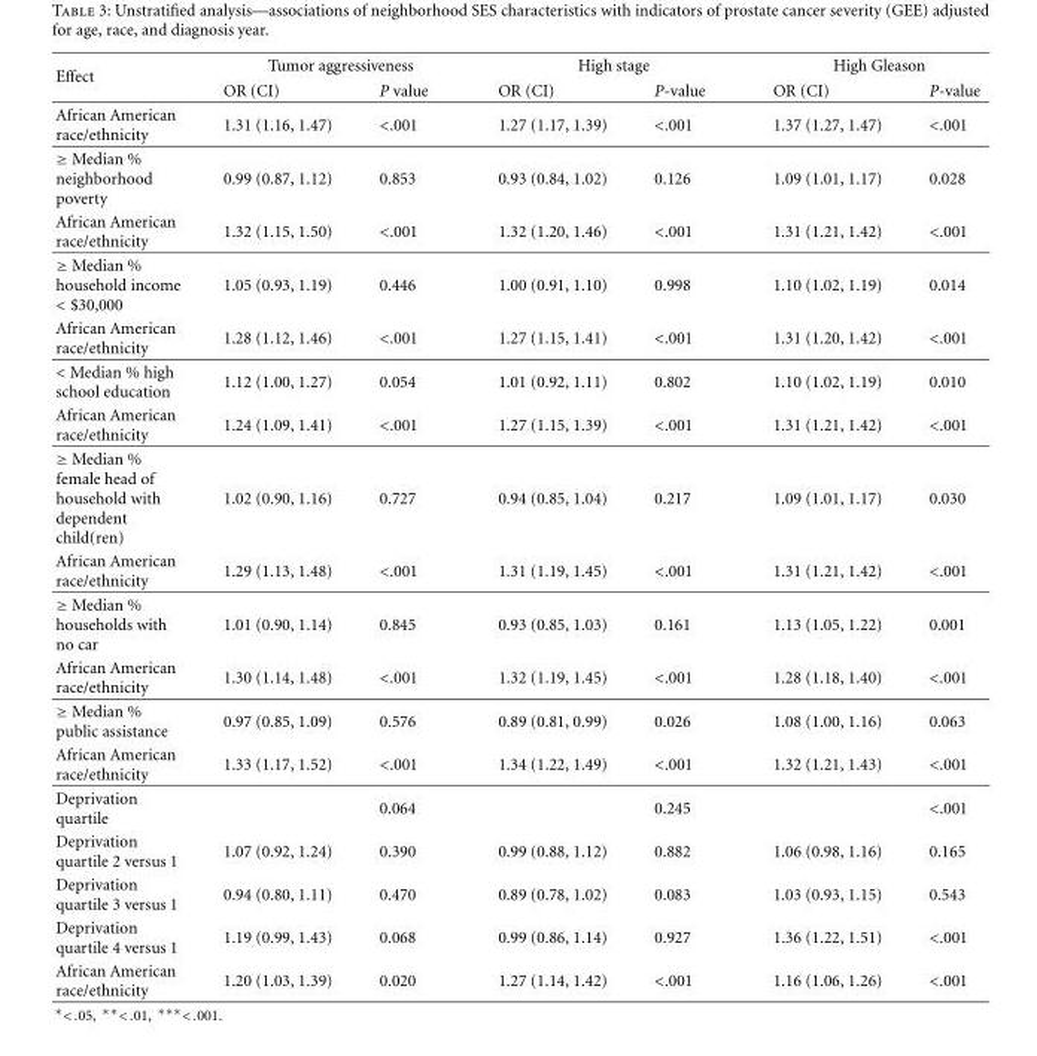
<table><thead><tr><td rowspan="2">Effect</td><td colspan="2">Tumor aggressiveness</td><td colspan="2">High stage</td><td colspan="2">High Gleason</td></tr><tr><td>OR (CI)</td><td>P value</td><td>OR (CI)</td><td>P-value</td><td>OR (CI)</td><td>P-value</td></tr></thead><tbody><tr><td>African American race/ethnicity</td><td>1.31 (1.16, 1.47)</td><td>&lt;.001</td><td>1.27 (1.17, 1.39)</td><td>&lt;.001</td><td>1.37 (1.27, 1.47)</td><td>&lt;.001</td></tr><tr><td>≥ Median % neighborhood poverty</td><td>0.99 (0.87, 1.12)</td><td>0.853</td><td>0.93 (0.84, 1.02)</td><td>0.126</td><td>1.09 (1.01, 1.17)</td><td>0.028</td></tr><tr><td>African American race/ethnicity</td><td>1.32 (1.15, 1.50)</td><td>&lt;.001</td><td>1.32 (1.20, 1.46)</td><td>&lt;.001</td><td>1.31 (1.21, 1.42)</td><td>&lt;.001</td></tr><tr><td>≥ Median % household income &lt; $30,000</td><td>1.05 (0.93, 1.19)</td><td>0.446</td><td>1.00 (0.91, 1.10)</td><td>0.998</td><td>1.10 (1.02, 1.19)</td><td>0.014</td></tr><tr><td>African American race/ethnicity</td><td>1.28 (1.12, 1.46)</td><td>&lt;.001</td><td>1.27 (1.15, 1.41)</td><td>&lt;.001</td><td>1.31 (1.20, 1.42)</td><td>&lt;.001</td></tr><tr><td>&lt; Median % high school education</td><td>1.12 (1.00, 1.27)</td><td>0.054</td><td>1.01 (0.92, 1.11)</td><td>0.802</td><td>1.10 (1.02, 1.19)</td><td>0.010</td></tr><tr><td>African American race/ethnicity</td><td>1.24 (1.09, 1.41)</td><td>&lt;.001</td><td>1.27 (1.15, 1.39)</td><td>&lt;.001</td><td>1.31 (1.21, 1.42)</td><td>&lt;.001</td></tr><tr><td>≥ Median % female head of household with dependent child(ren)</td><td>1.02 (0.90, 1.16)</td><td>0.727</td><td>0.94 (0.85, 1.04)</td><td>0.217</td><td>1.09 (1.01, 1.17)</td><td>0.030</td></tr><tr><td>African American race/ethnicity</td><td>1.29 (1.13, 1.48)</td><td>&lt;.001</td><td>1.31 (1.19, 1.45)</td><td>&lt;.001</td><td>1.31 (1.21, 1.42)</td><td>&lt;.001</td></tr><tr><td>≥ Median % households with no car</td><td>1.01 (0.90, 1.14)</td><td>0.845</td><td>0.93 (0.85, 1.03)</td><td>0.161</td><td>1.13 (1.05, 1.22)</td><td>0.001</td></tr><tr><td>African American race/ethnicity</td><td>1.30 (1.14, 1.48)</td><td>&lt;.001</td><td>1.32 (1.19, 1.45)</td><td>&lt;.001</td><td>1.28 (1.18, 1.40)</td><td>&lt;.001</td></tr><tr><td>≥ Median % public assistance</td><td>0.97 (0.85, 1.09)</td><td>0.576</td><td>0.89 (0.81, 0.99)</td><td>0.026</td><td>1.08 (1.00, 1.16)</td><td>0.063</td></tr><tr><td>African American race/ethnicity</td><td>1.33 (1.17, 1.52)</td><td>&lt;.001</td><td>1.34 (1.22, 1.49)</td><td>&lt;.001</td><td>1.32 (1.21, 1.43)</td><td>&lt;.001</td></tr><tr><td>Deprivation quartile</td><td></td><td>0.064</td><td></td><td>0.245</td><td></td><td>&lt;.001</td></tr><tr><td>Deprivation quartile 2 versus 1</td><td>1.07 (0.92, 1.24)</td><td>0.390</td><td>0.99 (0.88, 1.12)</td><td>0.882</td><td>1.06 (0.98, 1.16)</td><td>0.165</td></tr><tr><td>Deprivation quartile 3 versus 1</td><td>0.94 (0.80, 1.11)</td><td>0.470</td><td>0.89 (0.78, 1.02)</td><td>0.083</td><td>1.03 (0.93, 1.15)</td><td>0.543</td></tr><tr><td>Deprivation quartile 4 versus 1</td><td>1.19 (0.99, 1.43)</td><td>0.068</td><td>0.99 (0.86, 1.14)</td><td>0.927</td><td>1.36 (1.22, 1.51)</td><td>&lt;.001</td></tr><tr><td>African American race/ethnicity</td><td>1.20 (1.03, 1.39)</td><td>0.020</td><td>1.27 (1.14, 1.42)</td><td>&lt;.001</td><td>1.16 (1.06, 1.26)</td><td>&lt;.001</td></tr></tbody></table>